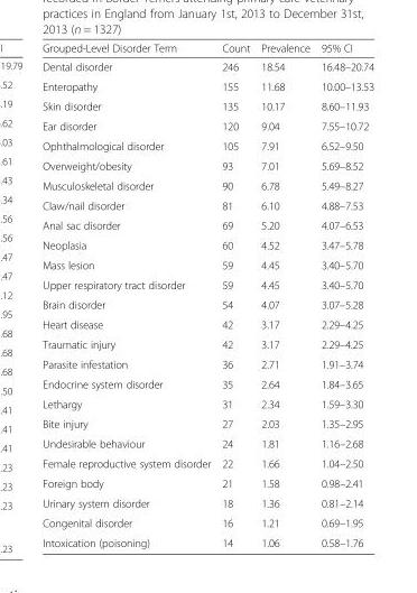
<table><thead><tr><td>Grouped-Level Disorder Term</td><td>Count</td><td>Prevalence</td><td>95% CI</td></tr></thead><tbody><tr><td>Dental disorder</td><td>246</td><td>18.54</td><td>16.48–20.74</td></tr><tr><td>Enteropathy</td><td>155</td><td>11.68</td><td>10.00–13.53</td></tr><tr><td>Skin disorder</td><td>135</td><td>10.17</td><td>8.60–11.93</td></tr><tr><td>Ear disorder</td><td>120</td><td>9.04</td><td>7.55–10.72</td></tr><tr><td>Ophthalmological disorder</td><td>105</td><td>7.91</td><td>6.52–9.50</td></tr><tr><td>Overweight/obesity</td><td>93</td><td>7.01</td><td>5.69–8.52</td></tr><tr><td>Musculoskeletal disorder</td><td>90</td><td>6.78</td><td>5.49–8.27</td></tr><tr><td>Claw/nail disorder</td><td>81</td><td>6.10</td><td>4.88–7.53</td></tr><tr><td>Anal sac disorder</td><td>69</td><td>5.20</td><td>4.07–6.53</td></tr><tr><td>Neoplasia</td><td>60</td><td>4.52</td><td>3.47–5.78</td></tr><tr><td>Mass lesion</td><td>59</td><td>4.45</td><td>3.40–5.70</td></tr><tr><td>Upper respiratory tract disorder</td><td>59</td><td>4.45</td><td>3.40–5.70</td></tr><tr><td>Brain disorder</td><td>54</td><td>4.07</td><td>3.07–5.28</td></tr><tr><td>Heart disease</td><td>42</td><td>3.17</td><td>2.29–4.25</td></tr><tr><td>Traumatic injury</td><td>42</td><td>3.17</td><td>2.29–4.25</td></tr><tr><td>Parasite infestation</td><td>36</td><td>2.71</td><td>1.91–3.74</td></tr><tr><td>Endocrine system disorder</td><td>35</td><td>2.64</td><td>1.84–3.65</td></tr><tr><td>Lethargy</td><td>31</td><td>2.34</td><td>1.59–3.30</td></tr><tr><td>Bite injury</td><td>27</td><td>2.03</td><td>1.35–2.95</td></tr><tr><td>Undesirable behaviour</td><td>24</td><td>1.81</td><td>1.16–2.68</td></tr><tr><td>Female reproductive system disorder</td><td>22</td><td>1.66</td><td>1.04–2.50</td></tr><tr><td>Foreign body</td><td>21</td><td>1.58</td><td>0.98–2.41</td></tr><tr><td>Urinary system disorder</td><td>18</td><td>1.36</td><td>0.81–2.14</td></tr><tr><td>Congenital disorder</td><td>16</td><td>1.21</td><td>0.69–1.95</td></tr><tr><td>Intoxication (poisoning)</td><td>14</td><td>1.06</td><td>0.58–1.76</td></tr></tbody></table>